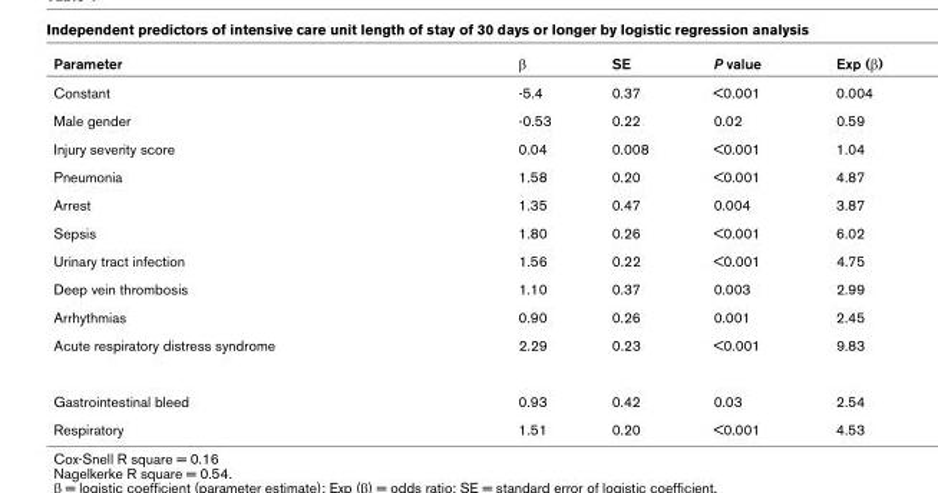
<table><thead><tr><td>Parameter</td><td>β</td><td>SE</td><td>P value</td><td>Exp (β)</td></tr></thead><tbody><tr><td>Constant</td><td>-5.4</td><td>0.37</td><td>&lt;0.001</td><td>0.004</td></tr><tr><td>Male gender</td><td>-0.53</td><td>0.22</td><td>0.02</td><td>0.59</td></tr><tr><td>Injury severity score</td><td>0.04</td><td>0.008</td><td>&lt;0.001</td><td>1.04</td></tr><tr><td>Pneumonia</td><td>1.58</td><td>0.20</td><td>&lt;0.001</td><td>4.87</td></tr><tr><td>Arrest</td><td>1.35</td><td>0.47</td><td>0.004</td><td>3.87</td></tr><tr><td>Sepsis</td><td>1.80</td><td>0.26</td><td>&lt;0.001</td><td>6.02</td></tr><tr><td>Urinary tract infection</td><td>1.56</td><td>0.22</td><td>&lt;0.001</td><td>4.75</td></tr><tr><td>Deep vein thrombosis</td><td>1.10</td><td>0.37</td><td>0.003</td><td>2.99</td></tr><tr><td>Arrhythmias</td><td>0.90</td><td>0.26</td><td>0.001</td><td>2.45</td></tr><tr><td>Acute respiratory distress syndrome</td><td>2.29</td><td>0.23</td><td>&lt;0.001</td><td>9.83</td></tr><tr><td>Gastrointestinal bleed</td><td>0.93</td><td>0.42</td><td>0.03</td><td>2.54</td></tr><tr><td>Respiratory</td><td>1.51</td><td>0.20</td><td>&lt;0.001</td><td>4.53</td></tr></tbody></table>